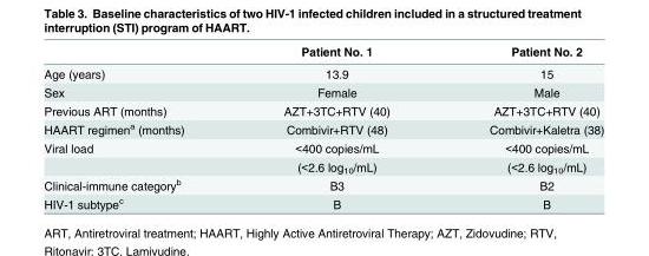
<table><thead><tr><td></td><td>Patient No. 1</td><td>Patient No. 2</td></tr></thead><tbody><tr><td>Age (years)</td><td>13.9</td><td>15</td></tr><tr><td>Sex</td><td>Female</td><td>Male</td></tr><tr><td>Previous ART (months)</td><td>AZT+3TC+RTV (40)</td><td>AZT+3TC+RTV (40)</td></tr><tr><td>HAART regimen<sup>a</sup> (months)</td><td>Combivir+RTV (48)</td><td>Combivir+Kaletra (38)</td></tr><tr><td rowspan="2">Viral load</td><td>&lt;400 copies/mL</td><td>&lt;400 copies/mL</td></tr><tr><td>(&lt;2.6 log<sub>10</sub>/mL)</td><td>(&lt;2.6 log<sub>10</sub>/mL)</td></tr><tr><td>Clinical-immune category<sup>b</sup></td><td>B3</td><td>B2</td></tr><tr><td>HIV-1 subtype<sup>c</sup></td><td>B</td><td>B</td></tr></tbody></table>